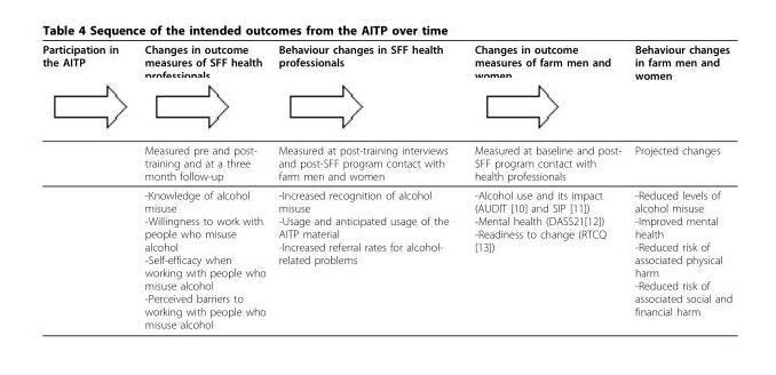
<table><thead><tr><td>Participation in the AITP</td><td>Changes in outcome measures of SFF health professionals</td><td>Behaviour changes in SFF health professionals</td><td>Changes in outcome measures of farm men and women</td><td>Behaviour changes in farm men and women</td></tr></thead><tbody><tr><td></td><td>Measured pre and post- training and at a three month follow-up</td><td>Measured at post-training interviews and post-SFF program contact with farm men and women</td><td>Measured at baseline and post- SFF program contact with health professionals</td><td>Projected changes</td></tr><tr><td></td><td>-Knowledge of alcohol misuse -Willingness to work with people who misuse alcohol -Self-efficacy when working with people who misuse alcohol -Perceived barriers to working with people who misuse alcohol</td><td>-Increased recognition of alcohol misuse -Usage and anticipated usage of the AITP material -Increased referral rates for alcohol- related problems</td><td>-Alcohol use and its impact (AUDIT [10] and SIP [11]) -Mental health (DASS21[12]) -Readiness to change (RTCQ [13])</td><td>-Reduced levels of alcohol misuse -Improved mental health -Reduced risk of associated physical harm -Reduced risk of associated social and financial harm</td></tr></tbody></table>